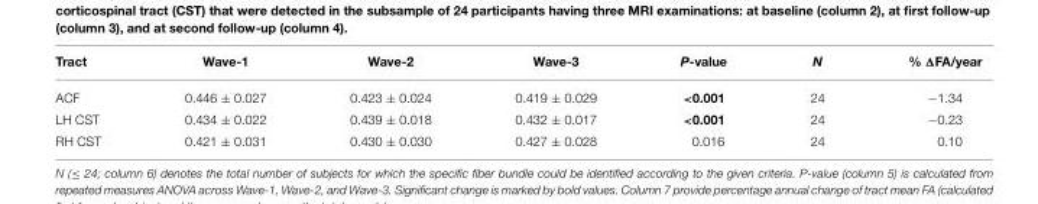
<table><thead><tr><td>Tract</td><td>Wave-1</td><td>Wave-2</td><td>Wave-3</td><td>P-value</td><td>N</td><td>% ΔFA/year</td></tr></thead><tbody><tr><td>ACF</td><td>0.446 ± 0.027</td><td>0.423 ± 0.024</td><td>0.419 ± 0.029</td><td>&lt;0.001</td><td>24</td><td>−1.34</td></tr><tr><td>LH CST</td><td>0.434 ± 0.022</td><td>0.439 ± 0.018</td><td>0.432 ± 0.017</td><td>&lt;0.001</td><td>24</td><td>−0.23</td></tr><tr><td>RH CST</td><td>0.421 ± 0.031</td><td>0.430 ± 0.030</td><td>0.427 ± 0.028</td><td>0.016</td><td>24</td><td>0.10</td></tr></tbody></table>